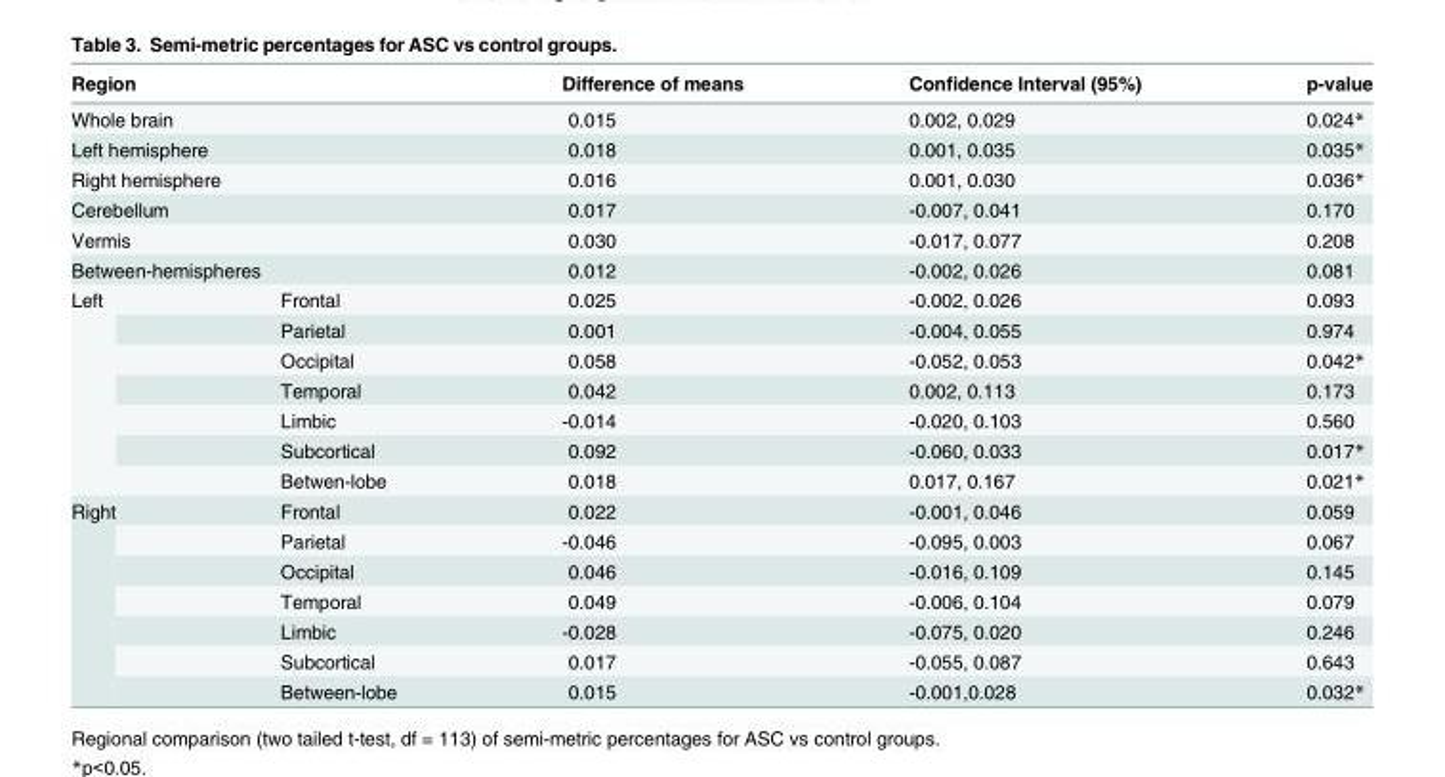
<table><thead><tr><td colspan="2">Region</td><td>Difference of means</td><td>Confidence Interval (95%)</td><td>p-value</td></tr></thead><tbody><tr><td colspan="2">Whole brain</td><td>0.015</td><td>0.002, 0.029</td><td>0.024*</td></tr><tr><td colspan="2">Left hemisphere</td><td>0.018</td><td>0.001, 0.035</td><td>0.035*</td></tr><tr><td colspan="2">Right hemisphere</td><td>0.016</td><td>0.001, 0.030</td><td>0.036*</td></tr><tr><td colspan="2">Cerebellum</td><td>0.017</td><td>-0.007, 0.041</td><td>0.170</td></tr><tr><td colspan="2">Vermis</td><td>0.030</td><td>-0.017, 0.077</td><td>0.208</td></tr><tr><td colspan="2">Between-hemispheres</td><td>0.012</td><td>-0.002, 0.026</td><td>0.081</td></tr><tr><td rowspan="7">Left</td><td>Frontal</td><td>0.025</td><td>-0.002, 0.026</td><td>0.093</td></tr><tr><td>Parietal</td><td>0.001</td><td>-0.004, 0.055</td><td>0.974</td></tr><tr><td>Occipital</td><td>0.058</td><td>-0.052, 0.053</td><td>0.042*</td></tr><tr><td>Temporal</td><td>0.042</td><td>0.002, 0.113</td><td>0.173</td></tr><tr><td>Limbic</td><td>-0.014</td><td>-0.020, 0.103</td><td>0.560</td></tr><tr><td>Subcortical</td><td>0.092</td><td>-0.060, 0.033</td><td>0.017*</td></tr><tr><td>Betwen-lobe</td><td>0.018</td><td>0.017, 0.167</td><td>0.021*</td></tr><tr><td rowspan="7">Right</td><td>Frontal</td><td>0.022</td><td>-0.001, 0.046</td><td>0.059</td></tr><tr><td>Parietal</td><td>-0.046</td><td>-0.095, 0.003</td><td>0.067</td></tr><tr><td>Occipital</td><td>0.046</td><td>-0.016, 0.109</td><td>0.145</td></tr><tr><td>Temporal</td><td>0.049</td><td>-0.006, 0.104</td><td>0.079</td></tr><tr><td>Limbic</td><td>-0.028</td><td>-0.075, 0.020</td><td>0.246</td></tr><tr><td>Subcortical</td><td>0.017</td><td>-0.055, 0.087</td><td>0.643</td></tr><tr><td>Between-lobe</td><td>0.015</td><td>-0.001,0.028</td><td>0.032*</td></tr></tbody></table>